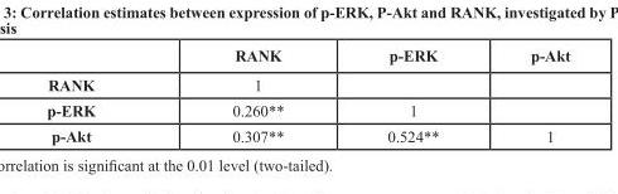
<table><thead><tr><td></td><td>RANK</td><td>p-ERK</td><td>p-Akt</td></tr></thead><tbody><tr><td>RANK</td><td>1</td><td></td><td></td></tr><tr><td>p-ERK</td><td>0.260**</td><td>1</td><td></td></tr><tr><td>p-Akt</td><td>0.307**</td><td>0.524**</td><td>1</td></tr></tbody></table>